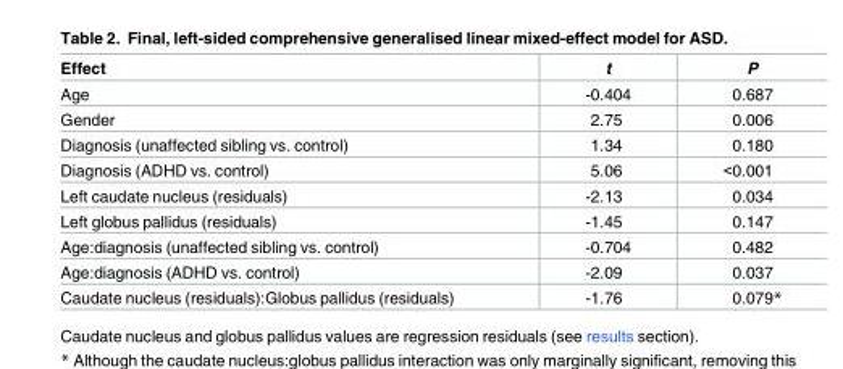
<table><thead><tr><td>Effect</td><td>t</td><td>P</td></tr></thead><tbody><tr><td>Age</td><td>-0.404</td><td>0.687</td></tr><tr><td>Gender</td><td>2.75</td><td>0.006</td></tr><tr><td>Diagnosis (unaffected sibling vs. control)</td><td>1.34</td><td>0.180</td></tr><tr><td>Diagnosis (ADHD vs. control)</td><td>5.06</td><td>&lt;0.001</td></tr><tr><td>Left caudate nucleus (residuals)</td><td>-2.13</td><td>0.034</td></tr><tr><td>Left globus pallidus (residuals)</td><td>-1.45</td><td>0.147</td></tr><tr><td>Age:diagnosis (unaffected sibling vs. control)</td><td>-0.704</td><td>0.482</td></tr><tr><td>Age:diagnosis (ADHD vs. control)</td><td>-2.09</td><td>0.037</td></tr><tr><td>Caudate nucleus (residuals):Globus pallidus (residuals)</td><td>-1.76</td><td>0.079*</td></tr></tbody></table>